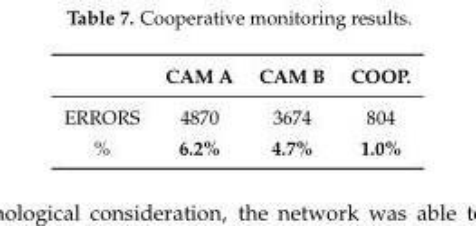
<table><thead><tr><td></td><td>CAM A</td><td>CAM B</td><td>COOP.</td></tr></thead><tbody><tr><td>ERRORS</td><td>4870</td><td>3674</td><td>804</td></tr><tr><td>%</td><td>6.2%</td><td>4.7%</td><td>1.0%</td></tr></tbody></table>